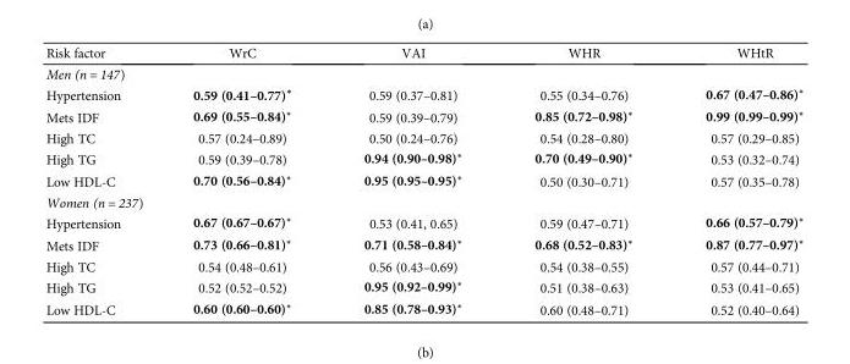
<table><thead><tr><td>Risk factor</td><td>WrC</td><td>VAI</td><td>WHR</td><td>WHtR</td></tr></thead><tbody><tr><td colspan="5">Men (n = 147)</td></tr><tr><td>Hypertension</td><td>0.59 (0.41–0.77)∗</td><td>0.59 (0.37–0.81)</td><td>0.55 (0.34–0.76)</td><td>0.67 (0.47–0.86)∗</td></tr><tr><td>Mets IDF</td><td>0.69 (0.55–0.84)∗</td><td>0.59 (0.39–0.79)</td><td>0.85 (0.72–0.98)∗</td><td>0.99 (0.99–0.99)∗</td></tr><tr><td>High TC</td><td>0.57 (0.24–0.89)</td><td>0.50 (0.24–0.76)</td><td>0.54 (0.28–0.80)</td><td>0.57 (0.29–0.85)</td></tr><tr><td>High TG</td><td>0.59 (0.39–0.78)</td><td>0.94 (0.90–0.98)∗</td><td>0.70 (0.49–0.90)∗</td><td>0.53 (0.32–0.74)</td></tr><tr><td>Low HDL-C</td><td>0.70 (0.56–0.84)∗</td><td>0.95 (0.95–0.95)∗</td><td>0.50 (0.30–0.71)</td><td>0.57 (0.35–0.78)</td></tr><tr><td colspan="5">Women (n = 237)</td></tr><tr><td>Hypertension</td><td>0.67 (0.67–0.67)∗</td><td>0.53 (0.41, 0.65)</td><td>0.59 (0.47–0.71)</td><td>0.66 (0.57–0.79)∗</td></tr><tr><td>Mets IDF</td><td>0.73 (0.66–0.81)∗</td><td>0.71 (0.58–0.84)∗</td><td>0.68 (0.52–0.83)∗</td><td>0.87 (0.77–0.97)∗</td></tr><tr><td>High TC</td><td>0.54 (0.48–0.61)</td><td>0.56 (0.43–0.69)</td><td>0.54 (0.38–0.55)</td><td>0.57 (0.44–0.71)</td></tr><tr><td>High TG</td><td>0.52 (0.52–0.52)</td><td>0.95 (0.92–0.99)∗</td><td>0.51 (0.38–0.63)</td><td>0.53 (0.41–0.65)</td></tr><tr><td>Low HDL-C</td><td>0.60 (0.60–0.60)∗</td><td>0.85 (0.78–0.93)∗</td><td>0.60 (0.48–0.71)</td><td>0.52 (0.40–0.64)</td></tr></tbody></table>